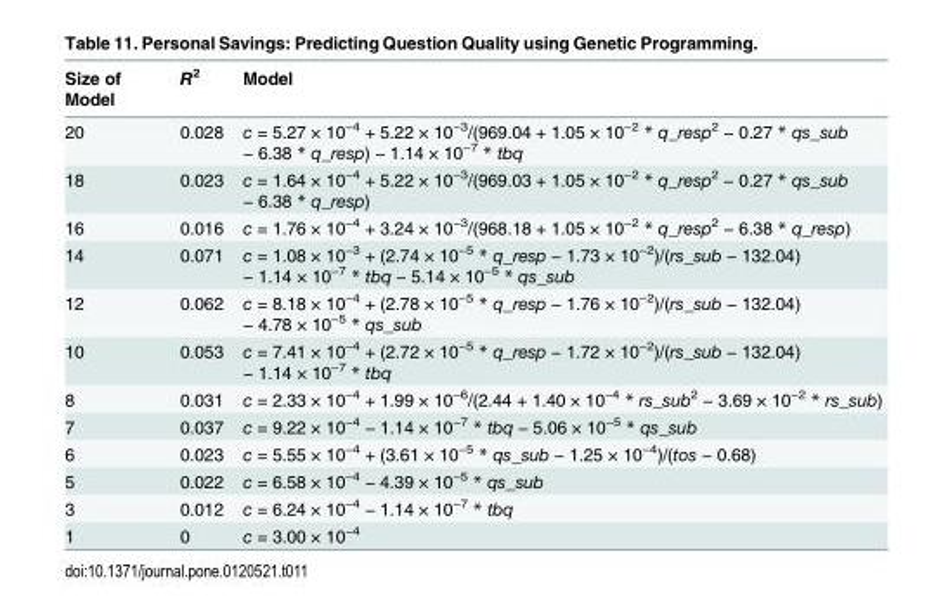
<table><thead><tr><td>Size of Model</td><td>R<sup>2</sup></td><td>Model</td></tr></thead><tbody><tr><td>20</td><td>0.028</td><td>c = 5.27 × 10<sup>−4</sup> + 5.22 × 10<sup>−3</sup>/(969.04 + 1.05 × 10<sup>−2</sup> * q_resp<sup>2</sup> − 0.27 * qs_sub − 6.38 * q_resp) − 1.14 × 10<sup>−7</sup> * tbq</td></tr><tr><td>18</td><td>0.023</td><td>c = 1.64 × 10<sup>−4</sup> + 5.22 × 10<sup>−3</sup>/(969.03 + 1.05 × 10<sup>−2</sup> * q_resp<sup>2</sup> − 0.27 * qs_sub − 6.38 * q_resp)</td></tr><tr><td>16</td><td>0.016</td><td>c = 1.76 × 10<sup>−4</sup> + 3.24 × 10<sup>−3</sup>/(968.18 + 1.05 × 10<sup>−2</sup> * q_resp<sup>2</sup> − 6.38 * q_resp)</td></tr><tr><td>14</td><td>0.071</td><td>c = 1.08 × 10<sup>−3</sup> + (2.74 × 10<sup>−5</sup> * q_resp − 1.73 × 10<sup>−2</sup>)/(rs_sub − 132.04) − 1.14 × 10<sup>−7</sup> * tbq − 5.14 × 10<sup>−5</sup> * qs_sub</td></tr><tr><td>12</td><td>0.062</td><td>c = 8.18 × 10<sup>−4</sup> + (2.78 × 10<sup>−5</sup> * q_resp − 1.76 × 10<sup>−2</sup>)/(rs_sub − 132.04) − 4.78 × 10<sup>−5</sup> * qs_sub</td></tr><tr><td>10</td><td>0.053</td><td>c = 7.41 × 10<sup>−4</sup> + (2.72 × 10<sup>−5</sup> * q_resp − 1.72 × 10<sup>−2</sup>)/(rs_sub − 132.04) − 1.14 × 10<sup>−7</sup> * tbq</td></tr><tr><td>8</td><td>0.031</td><td>c = 2.33 × 10<sup>−4</sup> + 1.99 × 10<sup>−6</sup>/(2.44 + 1.40 × 10<sup>−4</sup> * rs_sub<sup>2</sup> − 3.69 × 10<sup>−2</sup> * rs_sub)</td></tr><tr><td>7</td><td>0.037</td><td>c = 9.22 × 10<sup>−4</sup> − 1.14 × 10<sup>−7</sup> * tbq − 5.06 × 10<sup>−5</sup> * qs_sub</td></tr><tr><td>6</td><td>0.023</td><td>c = 5.55 × 10<sup>−4</sup> + (3.61 × 10<sup>−5</sup> * qs_sub − 1.25 × 10<sup>−4</sup>)/(tos − 0.68)</td></tr><tr><td>5</td><td>0.022</td><td>c = 6.58 × 10<sup>−4</sup> − 4.39 × 10<sup>−5</sup> * qs_sub</td></tr><tr><td>3</td><td>0.012</td><td>c = 6.24 × 10<sup>−4</sup> − 1.14 × 10<sup>−7</sup> * tbq</td></tr><tr><td>1</td><td>0</td><td>c = 3.00 × 10<sup>−4</sup></td></tr></tbody></table>